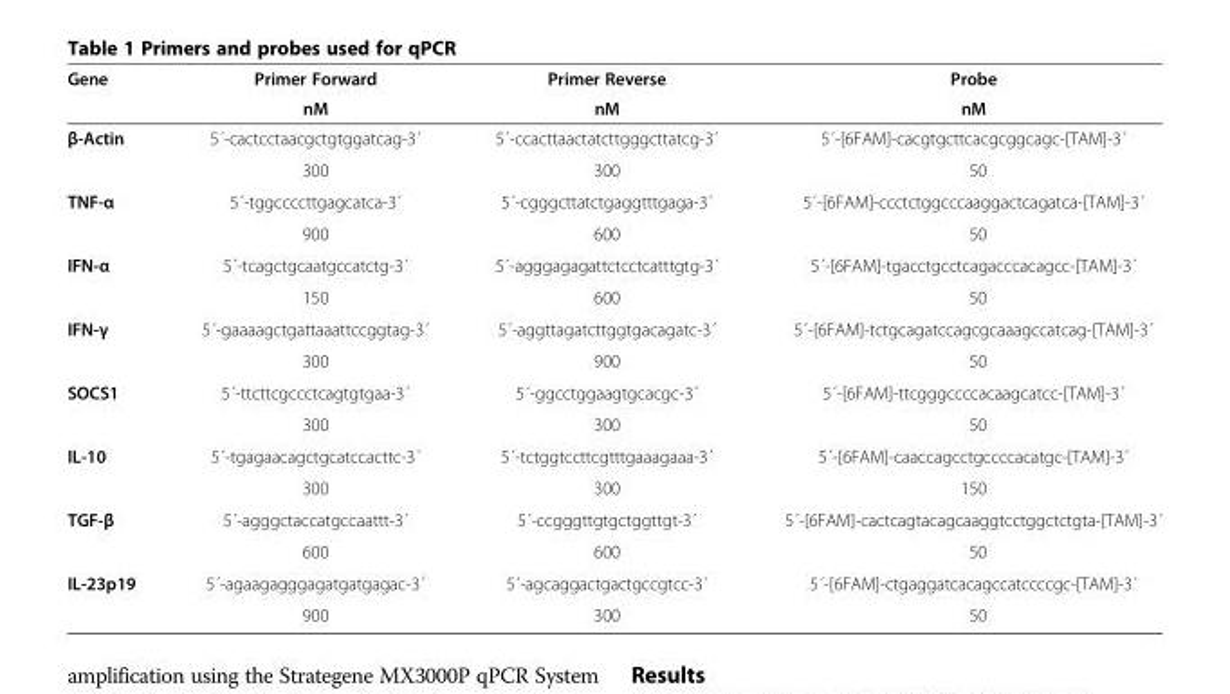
<table><thead><tr><td rowspan="2">Gene</td><td rowspan="2">Primer Forward nM</td><td rowspan="2">Primer Reverse nM</td><td rowspan="2">Probe nM</td></tr><tr></tr></thead><tbody><tr><td rowspan="2">β-Actin</td><td>5´-cactcctaacgctgtggatcag-3´</td><td>5´-ccacttaactatcttgggcttatcg-3´</td><td>5´-[6FAM]-cacgtgcttcacgcggcagc-[TAM]-3´</td></tr><tr><td>300</td><td>300</td><td>50</td></tr><tr><td rowspan="2">TNF-α</td><td>5´-tggccccttgagcatca-3´</td><td>5´-cgggcttatctgaggtttgaga-3´</td><td>5´-[6FAM]-ccctctggcccaaggactcagatca-[TAM]-3´</td></tr><tr><td>900</td><td>600</td><td>50</td></tr><tr><td rowspan="2">IFN-α</td><td>5´-tcagctgcaatgccatctg-3´</td><td>5´-agggagagattctcctcatttgtg-3´</td><td>5´-[6FAM]-tgacctgcctcagacccacagcc-[TAM]-3´</td></tr><tr><td>150</td><td>600</td><td>50</td></tr><tr><td rowspan="2">IFN-γ</td><td>5´-gaaaagctgattaaattccggtag-3´</td><td>5´-aggttagatcttggtgacagatc-3´</td><td>5´-[6FAM]-tctgcagatccagcgcaaagccatcag-[TAM]-3´</td></tr><tr><td>300</td><td>900</td><td>50</td></tr><tr><td rowspan="2">SOCS1</td><td>5´-ttcttcgccctcagtgtgaa-3´</td><td>5´-ggcctggaagtgcacgc-3´</td><td>5´-[6FAM]-ttcgggccccacaagcatcc-[TAM]-3´</td></tr><tr><td>300</td><td>300</td><td>50</td></tr><tr><td rowspan="2">IL-10</td><td>5´-tgagaacagctgcatccacttc-3´</td><td>5´-tctggtccttcgtttgaaagaaa-3´</td><td>5´-[6FAM]-caaccagcctgccccacatgc-[TAM]-3´</td></tr><tr><td>300</td><td>300</td><td>150</td></tr><tr><td rowspan="2">TGF-β</td><td>5´-agggctaccatgccaattt-3´</td><td>5´-ccgggttgtgctggttgt-3´</td><td>5´-[6FAM]-cactcagtacagcaaggtcctggctctgta-[TAM]-3´</td></tr><tr><td>600</td><td>600</td><td>50</td></tr><tr><td rowspan="2">IL-23p19</td><td>5´-agaagagggagatgatgagac-3´</td><td>5´-agcaggactgactgccgtcc-3´</td><td>5´-[6FAM]-ctgaggatcacagccatccccgc-[TAM]-3´</td></tr><tr><td>900</td><td>300</td><td>50</td></tr></tbody></table>